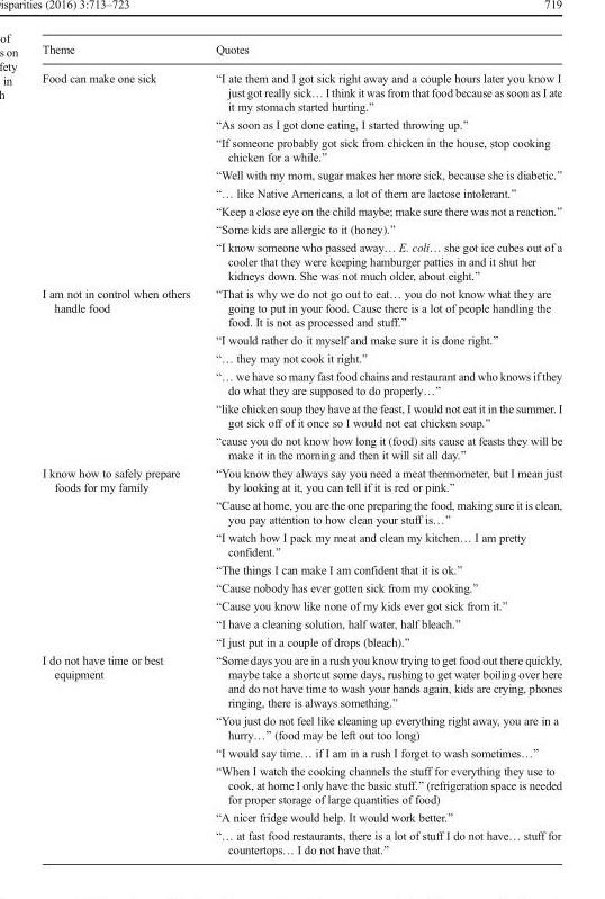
<table><thead><tr><td>Theme</td><td>Quotes</td></tr></thead><tbody><tr><td rowspan="8">Food can make one sick</td><td>“I ate them and I got sick right away and a couple hours later you know I just got really sick… I think it was from that food because as soon as I ate it my stomach started hurting.”</td></tr><tr><td>“As soon as I got done eating, I started throwing up.”</td></tr><tr><td>“If someone probably got sick from chicken in the house, stop cooking chicken for a while.”</td></tr><tr><td>“Well with my mom, sugar makes her more sick, because she is diabetic.”</td></tr><tr><td>“… like Native Americans, a lot of them are lactose intolerant.”</td></tr><tr><td>“Keep a close eye on the child maybe; make sure there was not a reaction.”</td></tr><tr><td>“Some kids are allergic to it (honey).”</td></tr><tr><td>“I know someone who passed away… E. coli… she got ice cubes out of a cooler that they were keeping hamburger patties in and it shut her kidneys down. She was not much older, about eight.”</td></tr><tr><td rowspan="6">I am not in control when others handle food</td><td>“That is why we do not go out to eat… you do not know what they are going to put in your food. Cause there is a lot of people handling the food. It is not as processed and stuff.”</td></tr><tr><td>“I would rather do it myself and make sure it is done right.”</td></tr><tr><td>“… they may not cook it right.”</td></tr><tr><td>“… we have so many fast food chains and restaurant and who knows if they do what they are supposed to do properly…”</td></tr><tr><td>“like chicken soup they have at the feast, I would not eat it in the summer. I got sick off of it once so I would not eat chicken soup.”</td></tr><tr><td>“cause you do not know how long it (food) sits cause at feasts they will be make it in the morning and then it will sit all day.”</td></tr><tr><td rowspan="8">I know how to safely prepare foods for my family</td><td>“You know they always say you need a meat thermometer, but I mean just by looking at it, you can tell if it is red or pink.”</td></tr><tr><td>“Cause at home, you are the one preparing the food, making sure it is clean, you pay attention to how clean your stuff is…”</td></tr><tr><td>“I watch how I pack my meat and clean my kitchen… I am pretty confident.”</td></tr><tr><td>“The things I can make I am confident that it is ok.”</td></tr><tr><td>“Cause nobody has ever gotten sick from my cooking.”</td></tr><tr><td>“Cause you know like none of my kids ever got sick from it.”</td></tr><tr><td>“I have a cleaning solution, half water, half bleach.”</td></tr><tr><td>“I just put in a couple of drops (bleach).”</td></tr><tr><td rowspan="6">I do not have time or best equipment</td><td>“Some days you are in a rush you know trying to get food out there quickly, maybe take a shortcut some days, rushing to get water boiling over here and do not have time to wash your hands again, kids are crying, phones ringing, there is always something.”</td></tr><tr><td>“You just do not feel like cleaning up everything right away, you are in a hurry…” (food may be left out too long)</td></tr><tr><td>“I would say time… if I am in a rush I forget to wash sometimes…”</td></tr><tr><td>“When I watch the cooking channels the stuff for everything they use to cook, at home I only have the basic stuff.” (refrigeration space is needed for proper storage of large quantities of food)</td></tr><tr><td>“A nicer fridge would help. It would work better.”</td></tr><tr><td>“… at fast food restaurants, there is a lot of stuff I do not have… stuff for countertops… I do not have that.”</td></tr></tbody></table>